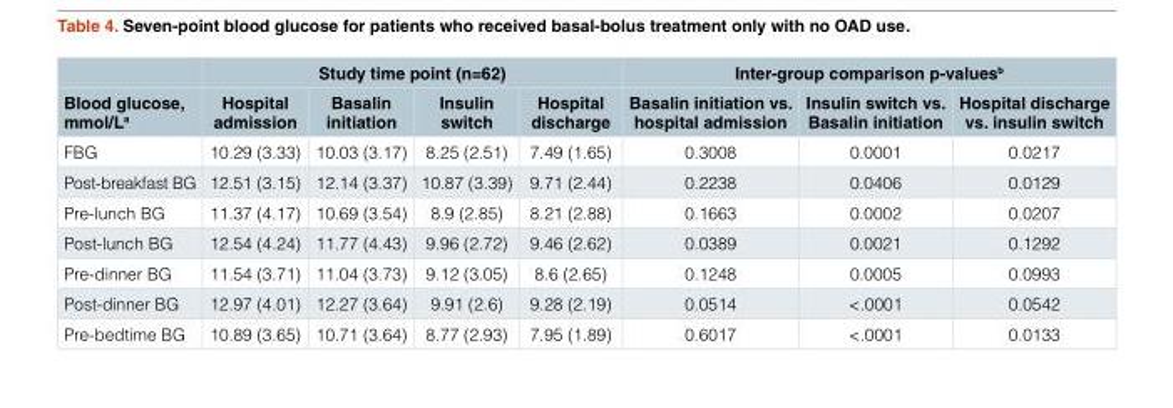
<table><thead><tr><td rowspan="2">Blood glucose, mmol/L<sup>a</sup></td><td colspan="4">Study time point (n=62)</td><td colspan="3">Inter-group comparison p-values<sup>b</sup></td></tr><tr><td>Hospital admission</td><td>Basalin initiation</td><td>Insulin switch</td><td>Hospital discharge</td><td>Basalin initiation vs. hospital admission</td><td>Insulin switch vs. Basalin initiation</td><td>Hospital discharge vs. insulin switch</td></tr></thead><tbody><tr><td>FBG</td><td>10.29 (3.33)</td><td>10.03 (3.17)</td><td>8.25 (2.51)</td><td>7.49 (1.65)</td><td>0.3008</td><td>0.0001</td><td>0.0217</td></tr><tr><td>Post-breakfast BG</td><td>12.51 (3.15)</td><td>12.14 (3.37)</td><td>10.87 (3.39)</td><td>9.71 (2.44)</td><td>0.2238</td><td>0.0406</td><td>0.0129</td></tr><tr><td>Pre-lunch BG</td><td>11.37 (4.17)</td><td>10.69 (3.54)</td><td>8.9 (2.85)</td><td>8.21 (2.88)</td><td>0.1663</td><td>0.0002</td><td>0.0207</td></tr><tr><td>Post-lunch BG</td><td>12.54 (4.24)</td><td>11.77 (4.43)</td><td>9.96 (2.72)</td><td>9.46 (2.62)</td><td>0.0389</td><td>0.0021</td><td>0.1292</td></tr><tr><td>Pre-dinner BG</td><td>11.54 (3.71)</td><td>11.04 (3.73)</td><td>9.12 (3.05)</td><td>8.6 (2.65)</td><td>0.1248</td><td>0.0005</td><td>0.0993</td></tr><tr><td>Post-dinner BG</td><td>12.97 (4.01)</td><td>12.27 (3.64)</td><td>9.91 (2.6)</td><td>9.28 (2.19)</td><td>0.0514</td><td>&lt;.0001</td><td>0.0542</td></tr><tr><td>Pre-bedtime BG</td><td>10.89 (3.65)</td><td>10.71 (3.64)</td><td>8.77 (2.93)</td><td>7.95 (1.89)</td><td>0.6017</td><td>&lt;.0001</td><td>0.0133</td></tr></tbody></table>